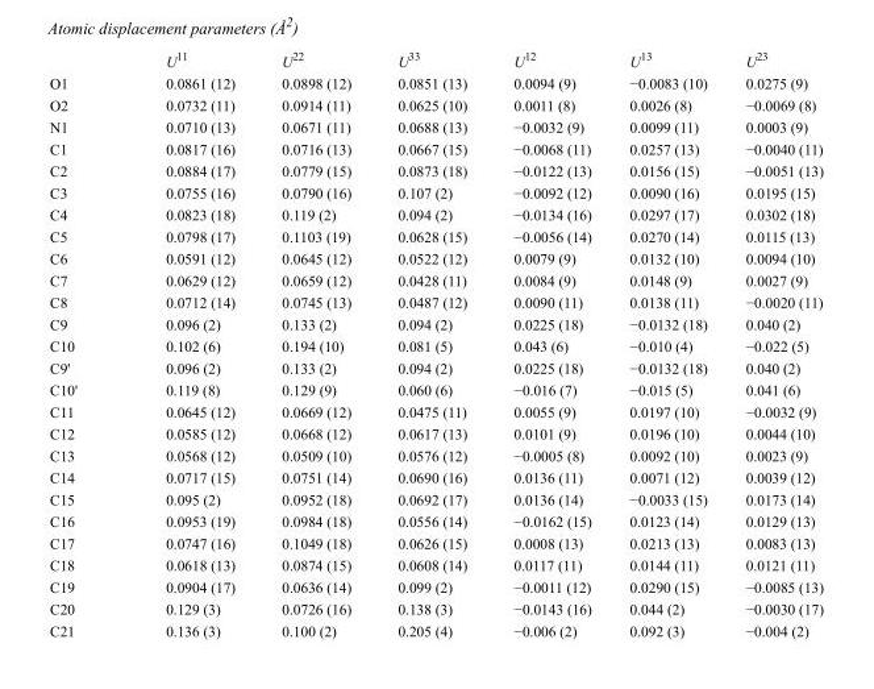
<table><thead><tr><td></td><td>U<sup>11</sup></td><td>U<sup>22</sup></td><td>U<sup>33</sup></td><td>U<sup>12</sup></td><td>U<sup>13</sup></td><td>U<sup>23</sup></td></tr></thead><tbody><tr><td>O1</td><td>0.0861 (12)</td><td>0.0898 (12)</td><td>0.0851 (13)</td><td>0.0094 (9)</td><td>−0.0083 (10)</td><td>0.0275 (9)</td></tr><tr><td>O2</td><td>0.0732 (11)</td><td>0.0914 (11)</td><td>0.0625 (10)</td><td>0.0011 (8)</td><td>0.0026 (8)</td><td>−0.0069 (8)</td></tr><tr><td>N1</td><td>0.0710 (13)</td><td>0.0671 (11)</td><td>0.0688 (13)</td><td>−0.0032 (9)</td><td>0.0099 (11)</td><td>0.0003 (9)</td></tr><tr><td>C1</td><td>0.0817 (16)</td><td>0.0716 (13)</td><td>0.0667 (15)</td><td>−0.0068 (11)</td><td>0.0257 (13)</td><td>−0.0040 (11)</td></tr><tr><td>C2</td><td>0.0884 (17)</td><td>0.0779 (15)</td><td>0.0873 (18)</td><td>−0.0122 (13)</td><td>0.0156 (15)</td><td>−0.0051 (13)</td></tr><tr><td>C3</td><td>0.0755 (16)</td><td>0.0790 (16)</td><td>0.107 (2)</td><td>−0.0092 (12)</td><td>0.0090 (16)</td><td>0.0195 (15)</td></tr><tr><td>C4</td><td>0.0823 (18)</td><td>0.119 (2)</td><td>0.094 (2)</td><td>−0.0134 (16)</td><td>0.0297 (17)</td><td>0.0302 (18)</td></tr><tr><td>C5</td><td>0.0798 (17)</td><td>0.1103 (19)</td><td>0.0628 (15)</td><td>−0.0056 (14)</td><td>0.0270 (14)</td><td>0.0115 (13)</td></tr><tr><td>C6</td><td>0.0591 (12)</td><td>0.0645 (12)</td><td>0.0522 (12)</td><td>0.0079 (9)</td><td>0.0132 (10)</td><td>0.0094 (10)</td></tr><tr><td>C7</td><td>0.0629 (12)</td><td>0.0659 (12)</td><td>0.0428 (11)</td><td>0.0084 (9)</td><td>0.0148 (9)</td><td>0.0027 (9)</td></tr><tr><td>C8</td><td>0.0712 (14)</td><td>0.0745 (13)</td><td>0.0487 (12)</td><td>0.0090 (11)</td><td>0.0138 (11)</td><td>−0.0020 (11)</td></tr><tr><td>C9</td><td>0.096 (2)</td><td>0.133 (2)</td><td>0.094 (2)</td><td>0.0225 (18)</td><td>−0.0132 (18)</td><td>0.040 (2)</td></tr><tr><td>C10</td><td>0.102 (6)</td><td>0.194 (10)</td><td>0.081 (5)</td><td>0.043 (6)</td><td>−0.010 (4)</td><td>−0.022 (5)</td></tr><tr><td>C9&#x27;</td><td>0.096 (2)</td><td>0.133 (2)</td><td>0.094 (2)</td><td>0.0225 (18)</td><td>−0.0132 (18)</td><td>0.040 (2)</td></tr><tr><td>C10&#x27;</td><td>0.119 (8)</td><td>0.129 (9)</td><td>0.060 (6)</td><td>−0.016 (7)</td><td>−0.015 (5)</td><td>0.041 (6)</td></tr><tr><td>C11</td><td>0.0645 (12)</td><td>0.0669 (12)</td><td>0.0475 (11)</td><td>0.0055 (9)</td><td>0.0197 (10)</td><td>−0.0032 (9)</td></tr><tr><td>C12</td><td>0.0585 (12)</td><td>0.0668 (12)</td><td>0.0617 (13)</td><td>0.0101 (9)</td><td>0.0196 (10)</td><td>0.0044 (10)</td></tr><tr><td>C13</td><td>0.0568 (12)</td><td>0.0509 (10)</td><td>0.0576 (12)</td><td>−0.0005 (8)</td><td>0.0092 (10)</td><td>0.0023 (9)</td></tr><tr><td>C14</td><td>0.0717 (15)</td><td>0.0751 (14)</td><td>0.0690 (16)</td><td>0.0136 (11)</td><td>0.0071 (12)</td><td>0.0039 (12)</td></tr><tr><td>C15</td><td>0.095 (2)</td><td>0.0952 (18)</td><td>0.0692 (17)</td><td>0.0136 (14)</td><td>−0.0033 (15)</td><td>0.0173 (14)</td></tr><tr><td>C16</td><td>0.0953 (19)</td><td>0.0984 (18)</td><td>0.0556 (14)</td><td>−0.0162 (15)</td><td>0.0123 (14)</td><td>0.0129 (13)</td></tr><tr><td>C17</td><td>0.0747 (16)</td><td>0.1049 (18)</td><td>0.0626 (15)</td><td>0.0008 (13)</td><td>0.0213 (13)</td><td>0.0083 (13)</td></tr><tr><td>C18</td><td>0.0618 (13)</td><td>0.0874 (15)</td><td>0.0608 (14)</td><td>0.0117 (11)</td><td>0.0144 (11)</td><td>0.0121 (11)</td></tr><tr><td>C19</td><td>0.0904 (17)</td><td>0.0636 (14)</td><td>0.099 (2)</td><td>−0.0011 (12)</td><td>0.0290 (15)</td><td>−0.0085 (13)</td></tr><tr><td>C20</td><td>0.129 (3)</td><td>0.0726 (16)</td><td>0.138 (3)</td><td>−0.0143 (16)</td><td>0.044 (2)</td><td>−0.0030 (17)</td></tr><tr><td>C21</td><td>0.136 (3)</td><td>0.100 (2)</td><td>0.205 (4)</td><td>−0.006 (2)</td><td>0.092 (3)</td><td>−0.004 (2)</td></tr></tbody></table>